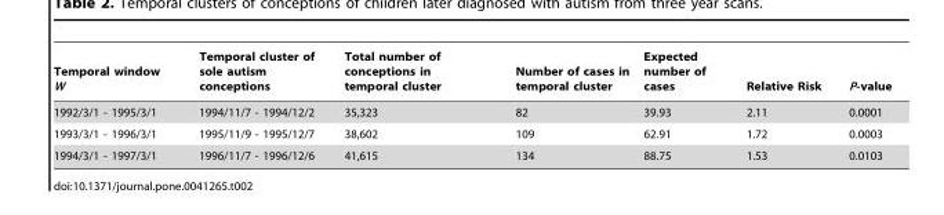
<table><thead><tr><td>Temporal window W</td><td>Temporal cluster of sole autism conceptions</td><td>Total number of conceptions in temporal cluster</td><td>Number of cases in temporal cluster</td><td>Expected number of cases</td><td>Relative Risk</td><td>P-value</td></tr></thead><tbody><tr><td>1992/3/1 - 1995/3/1</td><td>1994/11/7 - 1994/12/2</td><td>35,323</td><td>82</td><td>39.93</td><td>2.11</td><td>0.0001</td></tr><tr><td>1993/3/1 - 1996/3/1</td><td>1995/11/9 - 1995/12/7</td><td>38,602</td><td>109</td><td>62.91</td><td>1.72</td><td>0.0003</td></tr><tr><td>1994/3/1 - 1997/3/1</td><td>1996/11/7 - 1996/12/6</td><td>41,615</td><td>134</td><td>88.75</td><td>1.53</td><td>0.0103</td></tr></tbody></table>